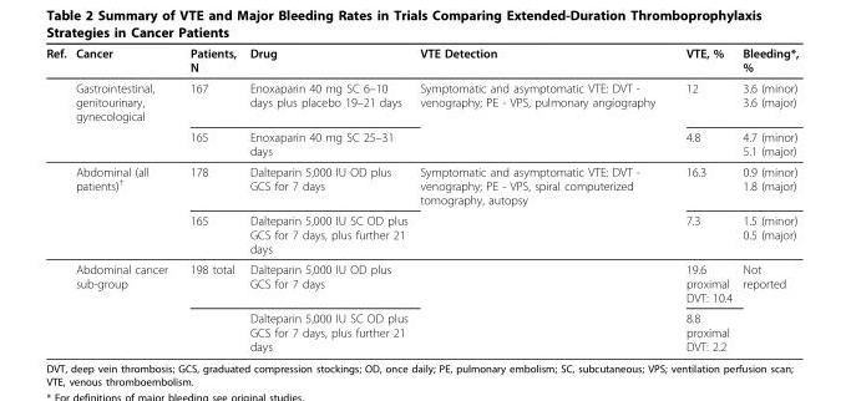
<table><thead><tr><td>Ref.</td><td>Cancer</td><td>Patients, N</td><td>Drug</td><td>VTE Detection</td><td>VTE, %</td><td>Bleeding*, %</td></tr></thead><tbody><tr><td rowspan="2"></td><td>Gastrointestinal, genitourinary, gynecological</td><td>167</td><td>Enoxaparin 40 mg SC 6–10 days plus placebo 19–21 days</td><td>Symptomatic and asymptomatic VTE: DVT - venography; PE - VPS, pulmonary angiography</td><td>12</td><td>3.6 (minor) 3.6 (major)</td></tr><tr><td></td><td>165</td><td>Enoxaparin 40 mg SC 25–31 days</td><td></td><td>4.8</td><td>4.7 (minor) 5.1 (major)</td></tr><tr><td rowspan="2"></td><td>Abdominal (all patients)<sup>†</sup></td><td>178</td><td>Dalteparin 5,000 IU OD plus GCS for 7 days</td><td>Symptomatic and asymptomatic VTE: DVT - venography; PE - VPS, spiral computerized tomography, autopsy</td><td>16.3</td><td>0.9 (minor) 1.8 (major)</td></tr><tr><td></td><td>165</td><td>Dalteparin 5,000 IU SC OD plus GCS for 7 days, plus further 21 days</td><td></td><td>7.3</td><td>1.5 (minor) 0.5 (major)</td></tr><tr><td rowspan="2"></td><td>Abdominal cancer sub-group</td><td>198 total</td><td>Dalteparin 5,000 IU OD plus GCS for 7 days</td><td></td><td>19.6 proximal DVT: 10.4</td><td>Not reported</td></tr><tr><td></td><td></td><td>Dalteparin 5,000 IU SC OD plus GCS for 7 days, plus further 21 days</td><td></td><td>8.8 proximal DVT: 2.2</td><td></td></tr></tbody></table>